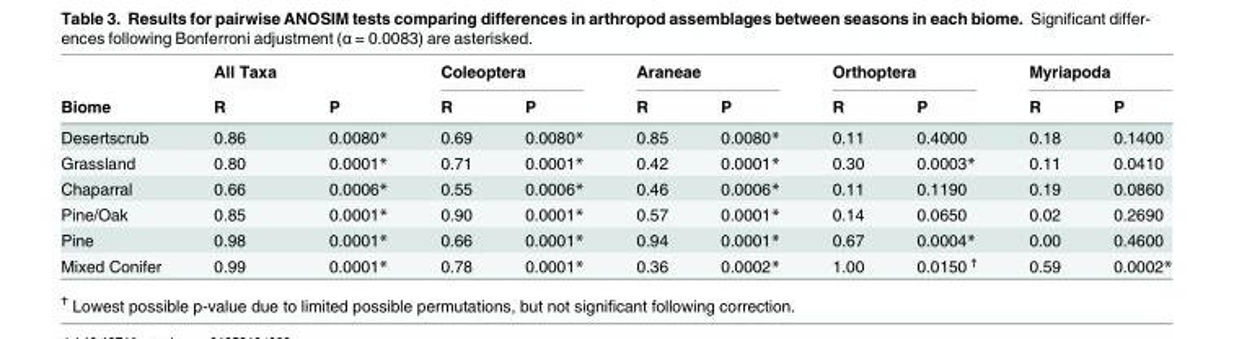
<table><thead><tr><td rowspan="2">Biome</td><td rowspan="2">All Taxa R</td><td rowspan="2">P</td><td colspan="2">Coleoptera</td><td colspan="2">Araneae</td><td colspan="2">Orthoptera</td><td colspan="2">Myriapoda</td></tr><tr><td>R</td><td>P</td><td>R</td><td>P</td><td>R</td><td>P</td><td>R</td><td>P</td></tr></thead><tbody><tr><td>Desertscrub</td><td>0.86</td><td>0.0080*</td><td>0.69</td><td>0.0080*</td><td>0.85</td><td>0.0080*</td><td>0.11</td><td>0.4000</td><td>0.18</td><td>0.1400</td></tr><tr><td>Grassland</td><td>0.80</td><td>0.0001*</td><td>0.71</td><td>0.0001*</td><td>0.42</td><td>0.0001*</td><td>0.30</td><td>0.0003*</td><td>0.11</td><td>0.0410</td></tr><tr><td>Chaparral</td><td>0.66</td><td>0.0006*</td><td>0.55</td><td>0.0006*</td><td>0.46</td><td>0.0006*</td><td>0.11</td><td>0.1190</td><td>0.19</td><td>0.0860</td></tr><tr><td>Pine/Oak</td><td>0.85</td><td>0.0001*</td><td>0.90</td><td>0.0001*</td><td>0.57</td><td>0.0001*</td><td>0.14</td><td>0.0650</td><td>0.02</td><td>0.2690</td></tr><tr><td>Pine</td><td>0.98</td><td>0.0001*</td><td>0.66</td><td>0.0001*</td><td>0.94</td><td>0.0001*</td><td>0.67</td><td>0.0004*</td><td>0.00</td><td>0.4600</td></tr><tr><td>Mixed Conifer</td><td>0.99</td><td>0.0001*</td><td>0.78</td><td>0.0001*</td><td>0.36</td><td>0.0002*</td><td>1.00</td><td>0.0150 <sup>ϯ</sup></td><td>0.59</td><td>0.0002*</td></tr></tbody></table>